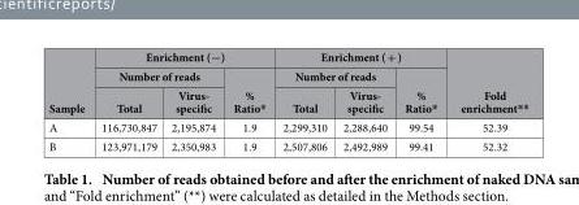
<table><thead><tr><td rowspan="3">Sample</td><td colspan="3">Enrichment (−)</td><td colspan="3">Enrichment ( + )</td><td rowspan="3">Fold enrichment**</td></tr><tr><td colspan="2">Number of reads</td><td rowspan="2">% Ratio*</td><td colspan="2">Number of reads</td><td rowspan="2">% Ratio*</td></tr><tr><td>Total</td><td>Virus- specific</td><td>Total</td><td>Virus- specific</td></tr></thead><tbody><tr><td>A</td><td>116,730,847</td><td>2,195,874</td><td>1.9</td><td>2,299,310</td><td>2,288,640</td><td>99.54</td><td>52.39</td></tr><tr><td>B</td><td>123,971,179</td><td>2,350,983</td><td>1.9</td><td>2,507,806</td><td>2,492,989</td><td>99.41</td><td>52.32</td></tr></tbody></table>